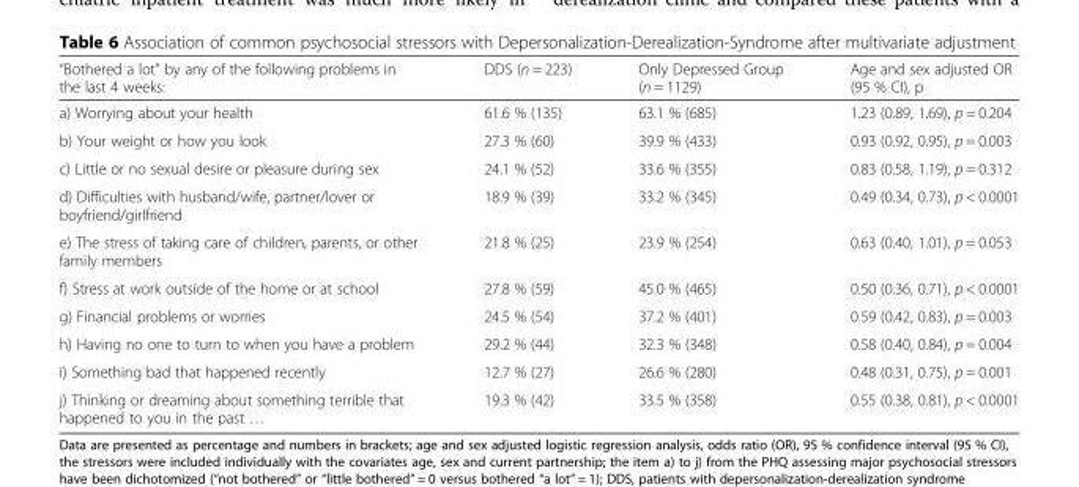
<table><thead><tr><td>“Bothered a lot” by any of the following problems in the last 4 weeks:</td><td>DDS (n = 223)</td><td>Only Depressed Group (n = 1129)</td><td>Age and sex adjusted OR (95 % CI), p</td></tr></thead><tbody><tr><td>a) Worrying about your health</td><td>61.6 % (135)</td><td>63.1 % (685)</td><td>1.23 (0.89, 1.69), p = 0.204</td></tr><tr><td>b) Your weight or how you look</td><td>27.3 % (60)</td><td>39.9 % (433)</td><td>0.93 (0.92, 0.95), p = 0.003</td></tr><tr><td>c) Little or no sexual desire or pleasure during sex</td><td>24.1 % (52)</td><td>33.6 % (355)</td><td>0.83 (0.58, 1.19), p = 0.312</td></tr><tr><td>d) Difficulties with husband/wife, partner/lover or boyfriend/girlfriend</td><td>18.9 % (39)</td><td>33.2 % (345)</td><td>0.49 (0.34, 0.73), p &lt; 0.0001</td></tr><tr><td>e) The stress of taking care of children, parents, or other family members</td><td>21.8 % (25)</td><td>23.9 % (254)</td><td>0.63 (0.40, 1.01), p = 0.053</td></tr><tr><td>f) Stress at work outside of the home or at school</td><td>27.8 % (59)</td><td>45.0 % (465)</td><td>0.50 (0.36, 0.71), p &lt; 0.0001</td></tr><tr><td>g) Financial problems or worries</td><td>24.5 % (54)</td><td>37.2 % (401)</td><td>0.59 (0.42, 0.83), p = 0.003</td></tr><tr><td>h) Having no one to turn to when you have a problem</td><td>29.2 % (44)</td><td>32.3 % (348)</td><td>0.58 (0.40, 0.84), p = 0.004</td></tr><tr><td>i) Something bad that happened recently</td><td>12.7 % (27)</td><td>26.6 % (280)</td><td>0.48 (0.31, 0.75), p = 0.001</td></tr><tr><td>j) Thinking or dreaming about something terrible that happened to you in the past …</td><td>19.3 % (42)</td><td>33.5 % (358)</td><td>0.55 (0.38, 0.81), p &lt; 0.0001</td></tr></tbody></table>